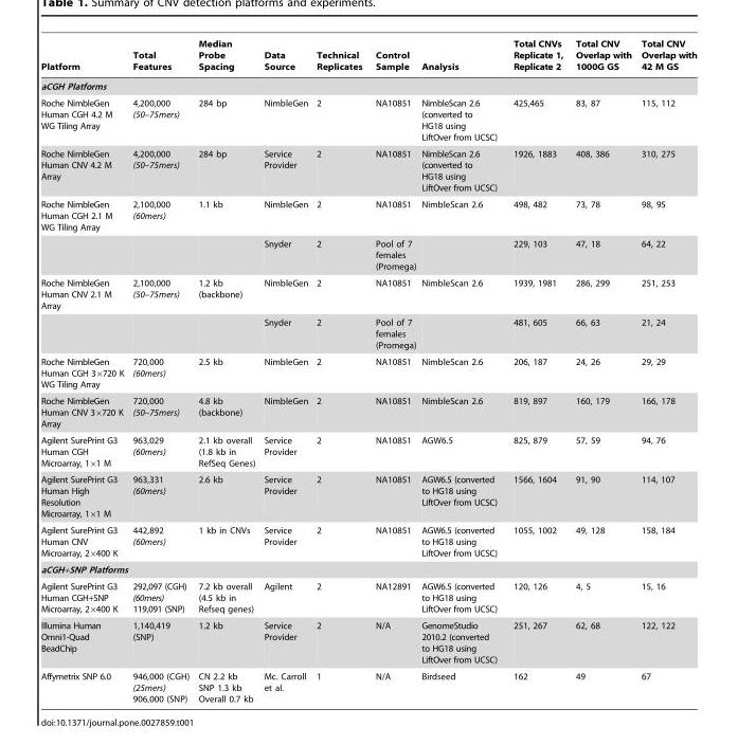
<table><thead><tr><td>Platform</td><td>Total Features</td><td>Median Probe Spacing</td><td>Data Source</td><td>Technical Replicates</td><td>Control Sample</td><td>Analysis</td><td>Total CNVs Replicate 1, Replicate 2</td><td>Total CNV Overlap with 1000G GS</td><td>Total CNV Overlap with 42 M GS</td></tr></thead><tbody><tr><td colspan="10">aCGH Platforms</td></tr><tr><td>Roche NimbleGen Human CGH 4.2 M WG Tiling Array</td><td>4,200,000 (50–75mers)</td><td>284 bp</td><td>NimbleGen</td><td>2</td><td>NA10851</td><td>NimbleScan 2.6 (converted to HG18 using LiftOver from UCSC)</td><td>425,465</td><td>83, 87</td><td>115, 112</td></tr><tr><td>Roche NimbleGen Human CNV 4.2 M Array</td><td>4,200,000 (50–75mers)</td><td>284 bp</td><td>Service Provider</td><td>2</td><td>NA10851</td><td>NimbleScan 2.6 (converted to HG18 using LiftOver from UCSC)</td><td>1926, 1883</td><td>408, 386</td><td>310, 275</td></tr><tr><td rowspan="2">Roche NimbleGen Human CGH 2.1 M WG Tiling Array</td><td>2,100,000 (60mers)</td><td>1.1 kb</td><td>NimbleGen</td><td>2</td><td>NA10851</td><td>NimbleScan 2.6</td><td>498, 482</td><td>73, 78</td><td>98, 95</td></tr><tr><td></td><td></td><td>Snyder</td><td>2</td><td>Pool of 7 females (Promega)</td><td></td><td>229, 103</td><td>47, 18</td><td>64, 22</td></tr><tr><td rowspan="2">Roche NimbleGen Human CNV 2.1 M Array</td><td>2,100,000 (50–75mers)</td><td>1.2 kb (backbone)</td><td>NimbleGen</td><td>2</td><td>NA10851</td><td>NimbleScan 2.6</td><td>1939, 1981</td><td>286, 299</td><td>251, 253</td></tr><tr><td></td><td></td><td>Snyder</td><td>2</td><td>Pool of 7 females (Promega)</td><td></td><td>481, 605</td><td>66, 63</td><td>21, 24</td></tr><tr><td>Roche NimbleGen Human CGH 3×720 K WG Tiling Array</td><td>720,000 (60mers)</td><td>2.5 kb</td><td>NimbleGen</td><td>2</td><td>NA10851</td><td>NimbleScan 2.6</td><td>206, 187</td><td>24, 26</td><td>29, 29</td></tr><tr><td>Roche NimbleGen Human CNV 3×720 K Array</td><td>720,000 (50–75mers)</td><td>4.8 kb (backbone)</td><td>NimbleGen</td><td>2</td><td>NA10851</td><td>NimbleScan 2.6</td><td>819, 897</td><td>160, 179</td><td>166, 178</td></tr><tr><td>Agilent SurePrint G3 Human CGH Microarray, 1×1 M</td><td>963,029 (60mers)</td><td>2.1 kb overall (1.8 kb in RefSeq Genes)</td><td>Service Provider</td><td>2</td><td>NA10851</td><td>AGW6.5</td><td>825, 879</td><td>57, 59</td><td>94, 76</td></tr><tr><td>Agilent SurePrint G3 Human High Resolution Microarray, 1×1 M</td><td>963,331 (60mers)</td><td>2.6 kb</td><td>Service Provider</td><td>2</td><td>NA10851</td><td>AGW6.5 (converted to HG18 using LiftOver from UCSC)</td><td>1566, 1604</td><td>91, 90</td><td>114, 107</td></tr><tr><td>Agilent SurePrint G3 Human CNV Microarray, 2×400 K</td><td>442,892 (60mers)</td><td>1 kb in CNVs</td><td>Service Provider</td><td>2</td><td>NA10851</td><td>AGW6.5 (converted to HG18 using LiftOver from UCSC)</td><td>1055, 1002</td><td>49, 128</td><td>158, 184</td></tr><tr><td colspan="10">aCGH+SNP Platforms</td></tr><tr><td>Agilent SurePrint G3 Human CGH+SNP Microarray, 2×400 K</td><td>292,097 (CGH) (60mers) 119,091 (SNP)</td><td>7.2 kb overall (4.5 kb in Refseq genes)</td><td>Agilent</td><td>2</td><td>NA12891</td><td>AGW6.5 (converted to HG18 using LiftOver from UCSC)</td><td>120, 126</td><td>4, 5</td><td>15, 16</td></tr><tr><td>Illumina Human Omni1-Quad BeadChip</td><td>1,140,419 (SNP)</td><td>1.2 kb</td><td>Service Provider</td><td>2</td><td>N/A</td><td>GenomeStudio 2010.2 (converted to HG18 using LiftOver from UCSC)</td><td>251, 267</td><td>62, 68</td><td>122, 122</td></tr><tr><td>Affymetrix SNP 6.0</td><td>946,000 (CGH) (25mers) 906,000 (SNP)</td><td>CN 2.2 kb SNP 1.3 kb Overall 0.7 kb</td><td>Mc. Carroll et al.</td><td>1</td><td>N/A</td><td>Birdseed</td><td>162</td><td>49</td><td>67</td></tr></tbody></table>